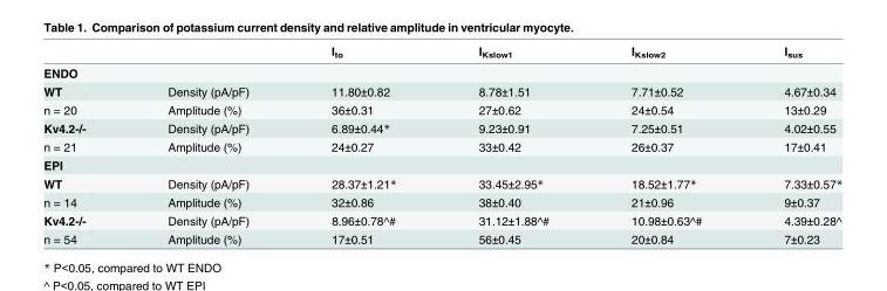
<table><thead><tr><td></td><td></td><td>I<sub>to</sub></td><td>I<sub>Kslow1</sub></td><td>I<sub>Kslow2</sub></td><td>I<sub>sus</sub></td></tr></thead><tbody><tr><td colspan="6">ENDO</td></tr><tr><td>WT</td><td>Density (pA/pF)</td><td>11.80±0.82</td><td>8.78±1.51</td><td>7.71±0.52</td><td>4.67±0.34</td></tr><tr><td>n = 20</td><td>Amplitude (%)</td><td>36±0.31</td><td>27±0.62</td><td>24±0.54</td><td>13±0.29</td></tr><tr><td>Kv4.2-/-</td><td>Density (pA/pF)</td><td>6.89±0.44*</td><td>9.23±0.91</td><td>7.25±0.51</td><td>4.02±0.55</td></tr><tr><td>n = 21</td><td>Amplitude (%)</td><td>24±0.27</td><td>33±0.42</td><td>26±0.37</td><td>17±0.41</td></tr><tr><td colspan="6">EPI</td></tr><tr><td>WT</td><td>Density (pA/pF)</td><td>28.37±1.21*</td><td>33.45±2.95*</td><td>18.52±1.77*</td><td>7.33±0.57*</td></tr><tr><td>n = 14</td><td>Amplitude (%)</td><td>32±0.86</td><td>38±0.40</td><td>21±0.96</td><td>9±0.37</td></tr><tr><td>Kv4.2-/-</td><td>Density (pA/pF)</td><td>8.96±0.78^#</td><td>31.12±1.88^#</td><td>10.98±0.63^#</td><td>4.39±0.28^</td></tr><tr><td>n = 54</td><td>Amplitude (%)</td><td>17±0.51</td><td>56±0.45</td><td>20±0.84</td><td>7±0.23</td></tr></tbody></table>